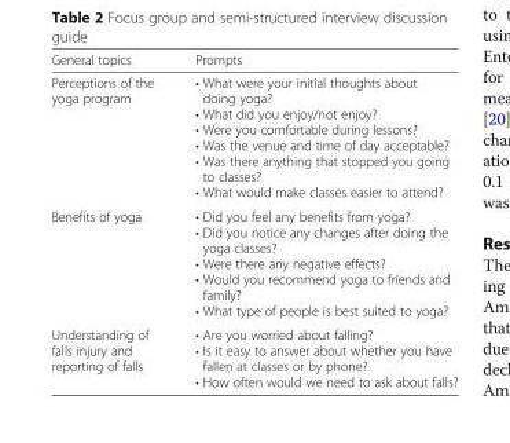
<table><thead><tr><td>General topics</td><td>Prompts</td></tr></thead><tbody><tr><td>Perceptions of the yoga program</td><td>• What were your initial thoughts about doing yoga? • What did you enjoy/not enjoy? • Were you comfortable during lessons? • Was the venue and time of day acceptable? • Was there anything that stopped you going to classes? • What would make classes easier to attend?</td></tr><tr><td>Benefits of yoga</td><td>• Did you feel any benefits from yoga? • Did you notice any changes after doing the yoga classes? • Were there any negative effects? • Would you recommend yoga to friends and family? • What type of people is best suited to yoga?</td></tr><tr><td>Understanding of falls injury and reporting of falls</td><td>• Are you worried about falling? • Is it easy to answer about whether you have fallen at classes or by phone? • How often would we need to ask about falls?</td></tr></tbody></table>